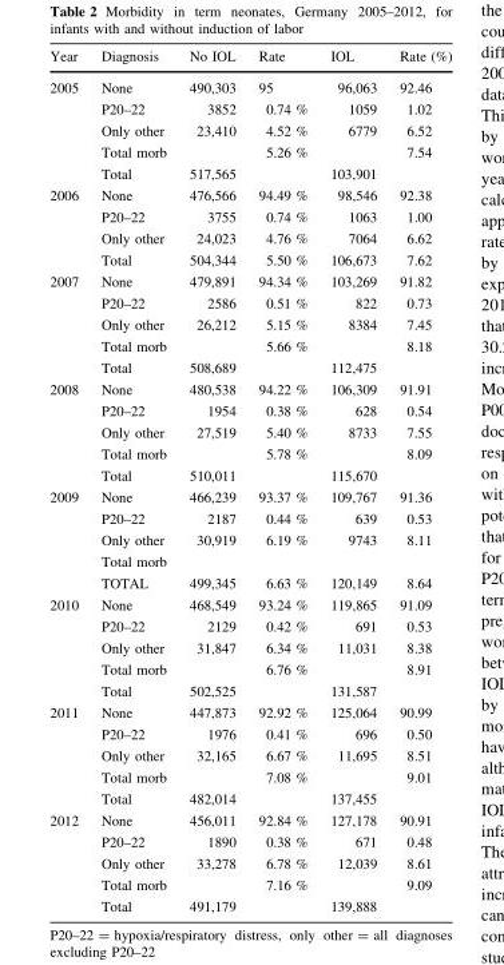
<table><thead><tr><td>Year</td><td>Diagnosis</td><td>No IOL</td><td>Rate</td><td>IOL</td><td>Rate (%)</td></tr></thead><tbody><tr><td rowspan="5">2005</td><td>None</td><td>490,303</td><td>95</td><td>96,063</td><td>92.46</td></tr><tr><td>P20–22</td><td>3852</td><td>0.74 %</td><td>1059</td><td>1.02</td></tr><tr><td>Only other</td><td>23,410</td><td>4.52 %</td><td>6779</td><td>6.52</td></tr><tr><td>Total morb</td><td></td><td>5.26 %</td><td></td><td>7.54</td></tr><tr><td>Total</td><td>517,565</td><td></td><td>103,901</td><td></td></tr><tr><td rowspan="4">2006</td><td>None</td><td>476,566</td><td>94.49 %</td><td>98,546</td><td>92.38</td></tr><tr><td>P20–22</td><td>3755</td><td>0.74 %</td><td>1063</td><td>1.00</td></tr><tr><td>Only other</td><td>24,023</td><td>4.76 %</td><td>7064</td><td>6.62</td></tr><tr><td>Total</td><td>504,344</td><td>5.50 %</td><td>106,673</td><td>7.62</td></tr><tr><td rowspan="5">2007</td><td>None</td><td>479,891</td><td>94.34 %</td><td>103,269</td><td>91.82</td></tr><tr><td>P20–22</td><td>2586</td><td>0.51 %</td><td>822</td><td>0.73</td></tr><tr><td>Only other</td><td>26,212</td><td>5.15 %</td><td>8384</td><td>7.45</td></tr><tr><td>Total morb</td><td></td><td>5.66 %</td><td></td><td>8.18</td></tr><tr><td>Total</td><td>508,689</td><td></td><td>112,475</td><td></td></tr><tr><td rowspan="5">2008</td><td>None</td><td>480,538</td><td>94.22 %</td><td>106,309</td><td>91.91</td></tr><tr><td>P20–22</td><td>1954</td><td>0.38 %</td><td>628</td><td>0.54</td></tr><tr><td>Only other</td><td>27,519</td><td>5.40 %</td><td>8733</td><td>7.55</td></tr><tr><td>Total morb</td><td></td><td>5.78 %</td><td></td><td>8.09</td></tr><tr><td>Total</td><td>510,011</td><td></td><td>115,670</td><td></td></tr><tr><td rowspan="5">2009</td><td>None</td><td>466,239</td><td>93.37 %</td><td>109,767</td><td>91.36</td></tr><tr><td>P20–22</td><td>2187</td><td>0.44 %</td><td>639</td><td>0.53</td></tr><tr><td>Only other</td><td>30,919</td><td>6.19 %</td><td>9743</td><td>8.11</td></tr><tr><td>Total morb</td><td></td><td></td><td></td><td></td></tr><tr><td>TOTAL</td><td>499,345</td><td>6.63 %</td><td>120,149</td><td>8.64</td></tr><tr><td rowspan="5">2010</td><td>None</td><td>468,549</td><td>93.24 %</td><td>119,865</td><td>91.09</td></tr><tr><td>P20–22</td><td>2129</td><td>0.42 %</td><td>691</td><td>0.53</td></tr><tr><td>Only other</td><td>31,847</td><td>6.34 %</td><td>11,031</td><td>8.38</td></tr><tr><td>Total morb</td><td></td><td>6.76 %</td><td></td><td>8.91</td></tr><tr><td>Total</td><td>502,525</td><td></td><td>131,587</td><td></td></tr><tr><td rowspan="5">2011</td><td>None</td><td>447,873</td><td>92.92 %</td><td>125,064</td><td>90.99</td></tr><tr><td>P20–22</td><td>1976</td><td>0.41 %</td><td>696</td><td>0.50</td></tr><tr><td>Only other</td><td>32,165</td><td>6.67 %</td><td>11,695</td><td>8.51</td></tr><tr><td>Total morb</td><td></td><td>7.08 %</td><td></td><td>9.01</td></tr><tr><td>Total</td><td>482,014</td><td></td><td>137,455</td><td></td></tr><tr><td rowspan="5">2012</td><td>None</td><td>456,011</td><td>92.84 %</td><td>127,178</td><td>90.91</td></tr><tr><td>P20–22</td><td>1890</td><td>0.38 %</td><td>671</td><td>0.48</td></tr><tr><td>Only other</td><td>33,278</td><td>6.78 %</td><td>12,039</td><td>8.61</td></tr><tr><td>Total morb</td><td></td><td>7.16 %</td><td></td><td>9.09</td></tr><tr><td>Total</td><td>491,179</td><td></td><td>139,888</td><td></td></tr></tbody></table>